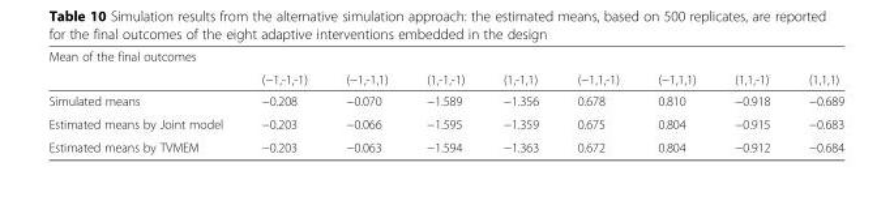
<table><tbody><tr><td colspan="9">Mean of the final outcomes</td></tr><tr><td></td><td>(−1,-1,-1)</td><td>(−1,-1,1)</td><td>(1,-1,-1)</td><td>(1,-1,1)</td><td>(−1,1,-1)</td><td>(−1,1,1)</td><td>(1,1,-1)</td><td>(1,1,1)</td></tr><tr><td>Simulated means</td><td>−0.208</td><td>−0.070</td><td>−1.589</td><td>−1.356</td><td>0.678</td><td>0.810</td><td>−0.918</td><td>−0.689</td></tr><tr><td>Estimated means by Joint model</td><td>−0.203</td><td>−0.066</td><td>−1.595</td><td>−1.359</td><td>0.675</td><td>0.804</td><td>−0.915</td><td>−0.683</td></tr><tr><td>Estimated means by TVMEM</td><td>−0.203</td><td>−0.063</td><td>−1.594</td><td>−1.363</td><td>0.672</td><td>0.804</td><td>−0.912</td><td>−0.684</td></tr></tbody></table>